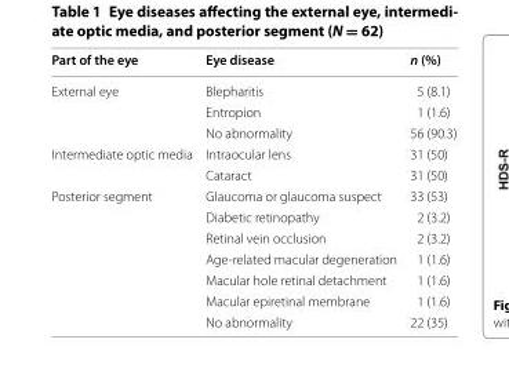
<table><thead><tr><td>Part of the eye</td><td>Eye disease</td><td>n (%)</td></tr></thead><tbody><tr><td rowspan="3">External eye</td><td>Blepharitis</td><td>5 (8.1)</td></tr><tr><td>Entropion</td><td>1 (1.6)</td></tr><tr><td>No abnormality</td><td>56 (90.3)</td></tr><tr><td rowspan="2">Intermediate optic media</td><td>Intraocular lens</td><td>31 (50)</td></tr><tr><td>Cataract</td><td>31 (50)</td></tr><tr><td rowspan="7">Posterior segment</td><td>Glaucoma or glaucoma suspect</td><td>33 (53)</td></tr><tr><td>Diabetic retinopathy</td><td>2 (3.2)</td></tr><tr><td>Retinal vein occlusion</td><td>2 (3.2)</td></tr><tr><td>Age-related macular degeneration</td><td>1 (1.6)</td></tr><tr><td>Macular hole retinal detachment</td><td>1 (1.6)</td></tr><tr><td>Macular epiretinal membrane</td><td>1 (1.6)</td></tr><tr><td>No abnormality</td><td>22 (35)</td></tr></tbody></table>